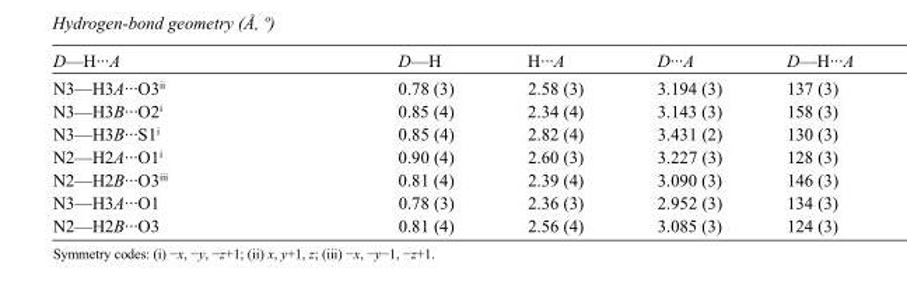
<table><tbody><tr><td>D—H···A</td><td>D—H</td><td>H···A</td><td>D···A</td><td>D—H···A</td></tr><tr><td>N3—H3A···O3<sup>ii</sup></td><td>0.78 (3)</td><td>2.58 (3)</td><td>3.194 (3)</td><td>137 (3)</td></tr><tr><td>N3—H3B···O2<sup>i</sup></td><td>0.85 (4)</td><td>2.34 (4)</td><td>3.143 (3)</td><td>158 (3)</td></tr><tr><td>N3—H3B···S1<sup>i</sup></td><td>0.85 (4)</td><td>2.82 (4)</td><td>3.431 (2)</td><td>130 (3)</td></tr><tr><td>N2—H2A···O1<sup>i</sup></td><td>0.90 (4)</td><td>2.60 (3)</td><td>3.227 (3)</td><td>128 (3)</td></tr><tr><td>N2—H2B···O3<sup>iii</sup></td><td>0.81 (4)</td><td>2.39 (4)</td><td>3.090 (3)</td><td>146 (3)</td></tr><tr><td>N3—H3A···O1</td><td>0.78 (3)</td><td>2.36 (3)</td><td>2.952 (3)</td><td>134 (3)</td></tr><tr><td>N2—H2B···O3</td><td>0.81 (4)</td><td>2.56 (4)</td><td>3.085 (3)</td><td>124 (3)</td></tr></tbody></table>